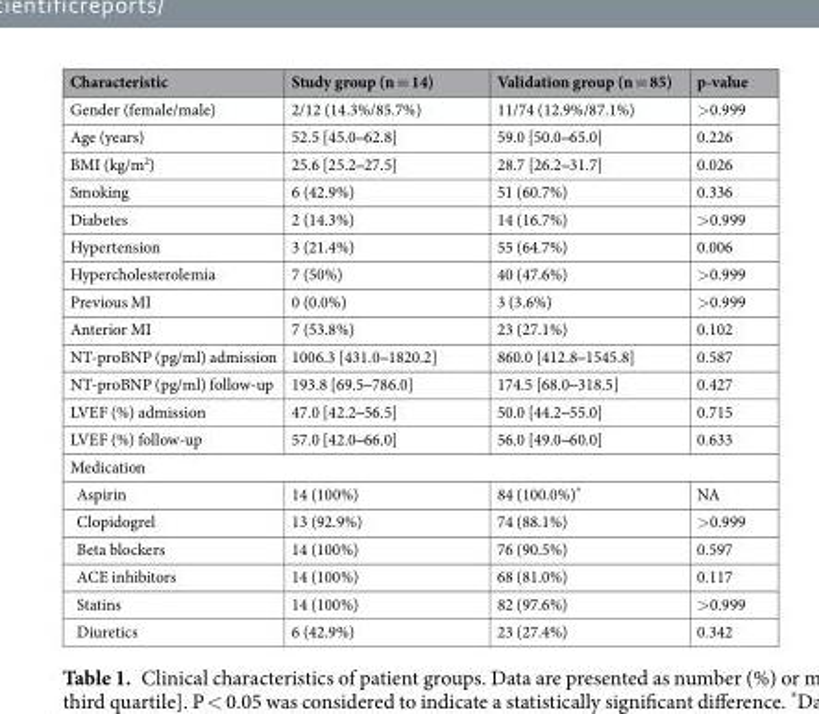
<table><thead><tr><td>Characteristic</td><td>Study group (n = 14)</td><td>Validation group (n = 85)</td><td>p-value</td></tr></thead><tbody><tr><td>Gender (female/male)</td><td>2/12 (14.3%/85.7%)</td><td>11/74 (12.9%/87.1%)</td><td>&gt;0.999</td></tr><tr><td>Age (years)</td><td>52.5 [45.0‒62.8]</td><td>59.0 [50.0‒65.0]</td><td>0.226</td></tr><tr><td>BMI (kg/m<sup>2</sup>)</td><td>25.6 [25.2‒27.5]</td><td>28.7 [26.2‒31.7]</td><td>0.026</td></tr><tr><td>Smoking</td><td>6 (42.9%)</td><td>51 (60.7%)</td><td>0.336</td></tr><tr><td>Diabetes</td><td>2 (14.3%)</td><td>14 (16.7%)</td><td>&gt;0.999</td></tr><tr><td>Hypertension</td><td>3 (21.4%)</td><td>55 (64.7%)</td><td>0.006</td></tr><tr><td>Hypercholesterolemia</td><td>7 (50%)</td><td>40 (47.6%)</td><td>&gt;0.999</td></tr><tr><td>Previous MI</td><td>0 (0.0%)</td><td>3 (3.6%)</td><td>&gt;0.999</td></tr><tr><td>Anterior MI</td><td>7 (53.8%)</td><td>23 (27.1%)</td><td>0.102</td></tr><tr><td>NT-proBNP (pg/ml) admission</td><td>1006.3 [431.0‒1820.2]</td><td>860.0 [412.8‒1545.8]</td><td>0.587</td></tr><tr><td>NT-proBNP (pg/ml) follow-up</td><td>193.8 [69.5‒786.0]</td><td>174.5 [68.0‒318.5]</td><td>0.427</td></tr><tr><td>LVEF (%) admission</td><td>47.0 [42.2‒56.5]</td><td>50.0 [44.2‒55.0]</td><td>0.715</td></tr><tr><td>LVEF (%) follow-up</td><td>57.0 [42.0‒66.0]</td><td>56.0 [49.0‒60.0]</td><td>0.633</td></tr><tr><td colspan="4">Medication</td></tr><tr><td>Aspirin</td><td>14 (100%)</td><td>84 (100.0%)*</td><td>NA</td></tr><tr><td>Clopidogrel</td><td>13 (92.9%)</td><td>74 (88.1%)</td><td>&gt;0.999</td></tr><tr><td>Beta blockers</td><td>14 (100%)</td><td>76 (90.5%)</td><td>0.597</td></tr><tr><td>ACE inhibitors</td><td>14 (100%)</td><td>68 (81.0%)</td><td>0.117</td></tr><tr><td>Statins</td><td>14 (100%)</td><td>82 (97.6%)</td><td>&gt;0.999</td></tr><tr><td>Diuretics</td><td>6 (42.9%)</td><td>23 (27.4%)</td><td>0.342</td></tr></tbody></table>